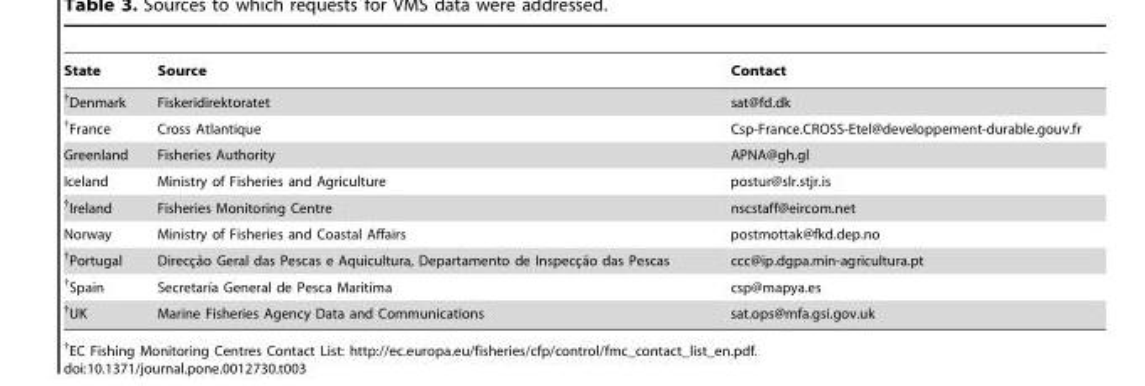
<table><thead><tr><td>State</td><td>Source</td><td>Contact</td></tr></thead><tbody><tr><td>†Denmark</td><td>Fiskeridirektoratet</td><td>sat@fd.dk</td></tr><tr><td>†France</td><td>Cross Atlantique</td><td>Csp-France.CROSS-Etel@developpement-durable.gouv.fr</td></tr><tr><td>Greenland</td><td>Fisheries Authority</td><td>APNA@gh.gl</td></tr><tr><td>Iceland</td><td>Ministry of Fisheries and Agriculture</td><td>postur@slr.stjr.is</td></tr><tr><td>†Ireland</td><td>Fisheries Monitoring Centre</td><td>nscstaff@eircom.net</td></tr><tr><td>Norway</td><td>Ministry of Fisheries and Coastal Affairs</td><td>postmottak@fkd.dep.no</td></tr><tr><td>†Portugal</td><td>Direcc¸a˜o Geral das Pescas e Aquicultura, Departamento de Inspecc¸a˜o das Pescas</td><td>ccc@ip.dgpa.min-agricultura.pt</td></tr><tr><td>†Spain</td><td>Secretarı´a General de Pesca Maritı´ma</td><td>csp@mapya.es</td></tr><tr><td>†UK</td><td>Marine Fisheries Agency Data and Communications</td><td>sat.ops@mfa.gsi.gov.uk</td></tr></tbody></table>